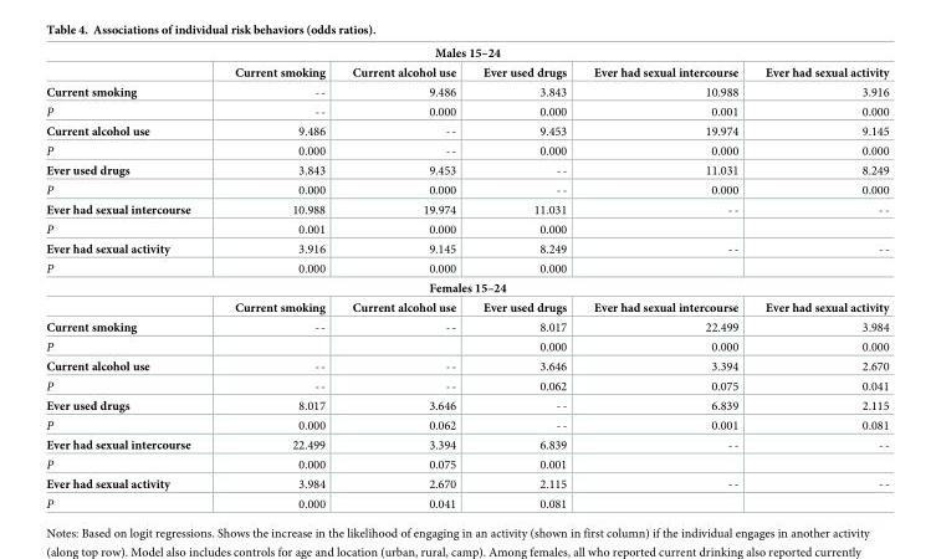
<table><tbody><tr><td colspan="6">Males 15–24</td></tr><tr><td></td><td>Current smoking</td><td>Current alcohol use</td><td>Ever used drugs</td><td>Ever had sexual intercourse</td><td>Ever had sexual activity</td></tr><tr><td>Current smoking</td><td>--</td><td>9.486</td><td>3.843</td><td>10.988</td><td>3.916</td></tr><tr><td>P</td><td>--</td><td>0.000</td><td>0.000</td><td>0.001</td><td>0.000</td></tr><tr><td>Current alcohol use</td><td>9.486</td><td>--</td><td>9.453</td><td>19.974</td><td>9.145</td></tr><tr><td>P</td><td>0.000</td><td>--</td><td>0.000</td><td>0.000</td><td>0.000</td></tr><tr><td>Ever used drugs</td><td>3.843</td><td>9.453</td><td>--</td><td>11.031</td><td>8.249</td></tr><tr><td>P</td><td>0.000</td><td>0.000</td><td>--</td><td>0.000</td><td>0.000</td></tr><tr><td>Ever had sexual intercourse</td><td>10.988</td><td>19.974</td><td>11.031</td><td>--</td><td>--</td></tr><tr><td>P</td><td>0.001</td><td>0.000</td><td>0.000</td><td></td><td></td></tr><tr><td>Ever had sexual activity</td><td>3.916</td><td>9.145</td><td>8.249</td><td>--</td><td>--</td></tr><tr><td>P</td><td>0.000</td><td>0.000</td><td>0.000</td><td></td><td></td></tr><tr><td colspan="6">Females 15–24</td></tr><tr><td></td><td>Current smoking</td><td>Current alcohol use</td><td>Ever used drugs</td><td>Ever had sexual intercourse</td><td>Ever had sexual activity</td></tr><tr><td>Current smoking</td><td>--</td><td>--</td><td>8.017</td><td>22.499</td><td>3.984</td></tr><tr><td>P</td><td></td><td></td><td>0.000</td><td>0.000</td><td>0.000</td></tr><tr><td>Current alcohol use</td><td>--</td><td>--</td><td>3.646</td><td>3.394</td><td>2.670</td></tr><tr><td>P</td><td>--</td><td>--</td><td>0.062</td><td>0.075</td><td>0.041</td></tr><tr><td>Ever used drugs</td><td>8.017</td><td>3.646</td><td>--</td><td>6.839</td><td>2.115</td></tr><tr><td>P</td><td>0.000</td><td>0.062</td><td>--</td><td>0.001</td><td>0.081</td></tr><tr><td>Ever had sexual intercourse</td><td>22.499</td><td>3.394</td><td>6.839</td><td>--</td><td>--</td></tr><tr><td>P</td><td>0.000</td><td>0.075</td><td>0.001</td><td></td><td></td></tr><tr><td>Ever had sexual activity</td><td>3.984</td><td>2.670</td><td>2.115</td><td>--</td><td>--</td></tr><tr><td>P</td><td>0.000</td><td>0.041</td><td>0.081</td><td></td><td></td></tr></tbody></table>